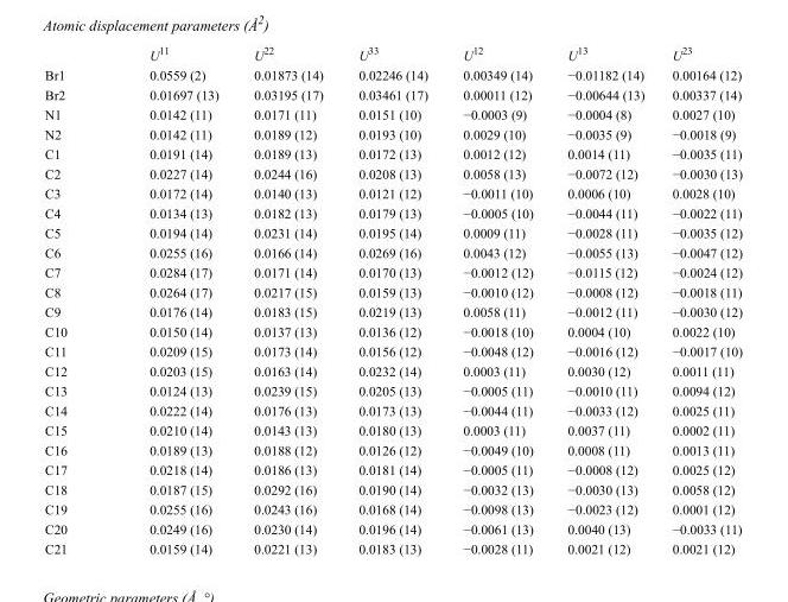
<table><thead><tr><td></td><td>U<sup>11</sup></td><td>U<sup>22</sup></td><td>U<sup>33</sup></td><td>U<sup>12</sup></td><td>U<sup>13</sup></td><td>U<sup>23</sup></td></tr></thead><tbody><tr><td>Br1</td><td>0.0559 (2)</td><td>0.01873 (14)</td><td>0.02246 (14)</td><td>0.00349 (14)</td><td>−0.01182 (14)</td><td>0.00164 (12)</td></tr><tr><td>Br2</td><td>0.01697 (13)</td><td>0.03195 (17)</td><td>0.03461 (17)</td><td>0.00011 (12)</td><td>−0.00644 (13)</td><td>0.00337 (14)</td></tr><tr><td>N1</td><td>0.0142 (11)</td><td>0.0171 (11)</td><td>0.0151 (10)</td><td>−0.0003 (9)</td><td>−0.0004 (8)</td><td>0.0027 (10)</td></tr><tr><td>N2</td><td>0.0142 (11)</td><td>0.0189 (12)</td><td>0.0193 (10)</td><td>0.0029 (10)</td><td>−0.0035 (9)</td><td>−0.0018 (9)</td></tr><tr><td>C1</td><td>0.0191 (14)</td><td>0.0189 (13)</td><td>0.0172 (13)</td><td>0.0012 (12)</td><td>0.0014 (11)</td><td>−0.0035 (11)</td></tr><tr><td>C2</td><td>0.0227 (14)</td><td>0.0244 (16)</td><td>0.0208 (13)</td><td>0.0058 (13)</td><td>−0.0072 (12)</td><td>−0.0030 (13)</td></tr><tr><td>C3</td><td>0.0172 (14)</td><td>0.0140 (13)</td><td>0.0121 (12)</td><td>−0.0011 (10)</td><td>0.0006 (10)</td><td>0.0028 (10)</td></tr><tr><td>C4</td><td>0.0134 (13)</td><td>0.0182 (13)</td><td>0.0179 (13)</td><td>−0.0005 (10)</td><td>−0.0044 (11)</td><td>−0.0022 (11)</td></tr><tr><td>C5</td><td>0.0194 (14)</td><td>0.0231 (14)</td><td>0.0195 (14)</td><td>0.0009 (11)</td><td>−0.0028 (11)</td><td>−0.0035 (12)</td></tr><tr><td>C6</td><td>0.0255 (16)</td><td>0.0166 (14)</td><td>0.0269 (16)</td><td>0.0043 (12)</td><td>−0.0055 (13)</td><td>−0.0047 (12)</td></tr><tr><td>C7</td><td>0.0284 (17)</td><td>0.0171 (14)</td><td>0.0170 (13)</td><td>−0.0012 (12)</td><td>−0.0115 (12)</td><td>−0.0024 (12)</td></tr><tr><td>C8</td><td>0.0264 (17)</td><td>0.0217 (15)</td><td>0.0159 (13)</td><td>−0.0010 (12)</td><td>−0.0008 (12)</td><td>−0.0018 (11)</td></tr><tr><td>C9</td><td>0.0176 (14)</td><td>0.0183 (15)</td><td>0.0219 (13)</td><td>0.0058 (11)</td><td>−0.0012 (11)</td><td>−0.0030 (12)</td></tr><tr><td>C10</td><td>0.0150 (14)</td><td>0.0137 (13)</td><td>0.0136 (12)</td><td>−0.0018 (10)</td><td>0.0004 (10)</td><td>0.0022 (10)</td></tr><tr><td>C11</td><td>0.0209 (15)</td><td>0.0173 (14)</td><td>0.0156 (12)</td><td>−0.0048 (12)</td><td>−0.0016 (12)</td><td>−0.0017 (10)</td></tr><tr><td>C12</td><td>0.0203 (15)</td><td>0.0163 (14)</td><td>0.0232 (14)</td><td>0.0003 (11)</td><td>0.0030 (12)</td><td>0.0011 (11)</td></tr><tr><td>C13</td><td>0.0124 (13)</td><td>0.0239 (15)</td><td>0.0205 (13)</td><td>−0.0005 (11)</td><td>−0.0010 (11)</td><td>0.0094 (12)</td></tr><tr><td>C14</td><td>0.0222 (14)</td><td>0.0176 (13)</td><td>0.0173 (13)</td><td>−0.0044 (11)</td><td>−0.0033 (12)</td><td>0.0025 (11)</td></tr><tr><td>C15</td><td>0.0210 (14)</td><td>0.0143 (13)</td><td>0.0180 (13)</td><td>0.0003 (11)</td><td>0.0037 (11)</td><td>0.0002 (11)</td></tr><tr><td>C16</td><td>0.0189 (13)</td><td>0.0188 (12)</td><td>0.0126 (12)</td><td>−0.0049 (10)</td><td>0.0008 (11)</td><td>0.0013 (11)</td></tr><tr><td>C17</td><td>0.0218 (14)</td><td>0.0186 (13)</td><td>0.0181 (14)</td><td>−0.0005 (11)</td><td>−0.0008 (12)</td><td>0.0025 (12)</td></tr><tr><td>C18</td><td>0.0187 (15)</td><td>0.0292 (16)</td><td>0.0190 (14)</td><td>−0.0032 (13)</td><td>−0.0030 (13)</td><td>0.0058 (12)</td></tr><tr><td>C19</td><td>0.0255 (16)</td><td>0.0243 (16)</td><td>0.0168 (14)</td><td>−0.0098 (13)</td><td>−0.0023 (12)</td><td>0.0001 (12)</td></tr><tr><td>C20</td><td>0.0249 (16)</td><td>0.0230 (14)</td><td>0.0196 (14)</td><td>−0.0061 (13)</td><td>0.0040 (13)</td><td>−0.0033 (11)</td></tr><tr><td>C21</td><td>0.0159 (14)</td><td>0.0221 (13)</td><td>0.0183 (13)</td><td>−0.0028 (11)</td><td>0.0021 (12)</td><td>0.0021 (12)</td></tr></tbody></table>